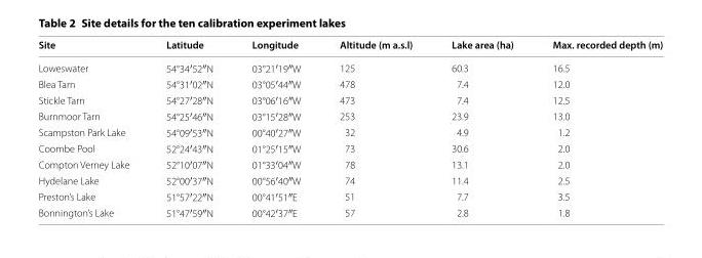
<table><thead><tr><td>Site</td><td>Latitude</td><td>Longitude</td><td>Altitude (m a.s.l)</td><td>Lake area (ha)</td><td>Max. recorded depth (m)</td></tr></thead><tbody><tr><td>Loweswater</td><td>54°34′52″N</td><td>03°21′19″W</td><td>125</td><td>60.3</td><td>16.5</td></tr><tr><td>Blea Tarn</td><td>54°31′02″N</td><td>03°05′44″W</td><td>478</td><td>7.4</td><td>12.0</td></tr><tr><td>Stickle Tarn</td><td>54°27′28″N</td><td>03°06′16″W</td><td>473</td><td>7.4</td><td>12.5</td></tr><tr><td>Burnmoor Tarn</td><td>54°25′46″N</td><td>03°15′28″W</td><td>253</td><td>23.9</td><td>13.0</td></tr><tr><td>Scampston Park Lake</td><td>54°09′53″N</td><td>00°40′27″W</td><td>32</td><td>4.9</td><td>1.2</td></tr><tr><td>Coombe Pool</td><td>52°24′43″N</td><td>01°25′15″W</td><td>73</td><td>30.6</td><td>2.0</td></tr><tr><td>Compton Verney Lake</td><td>52°10′07″N</td><td>01°33′04″W</td><td>78</td><td>13.1</td><td>2.0</td></tr><tr><td>Hydelane Lake</td><td>52°00′37″N</td><td>00°56′40″W</td><td>74</td><td>11.4</td><td>2.5</td></tr><tr><td>Preston’s Lake</td><td>51°57′22″N</td><td>00°41′51″E</td><td>51</td><td>7.7</td><td>3.5</td></tr><tr><td>Bonnington’s Lake</td><td>51°47′59″N</td><td>00°42′37″E</td><td>57</td><td>2.8</td><td>1.8</td></tr></tbody></table>